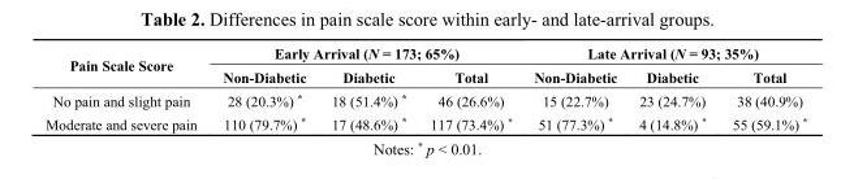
<table><thead><tr><td rowspan="2">Pain Scale Score</td><td colspan="3">Early Arrival (N = 173; 65%)</td><td colspan="3">Late Arrival (N = 93; 35%)</td></tr><tr><td>Non-Diabetic</td><td>Diabetic</td><td>Total</td><td>Non-Diabetic</td><td>Diabetic</td><td>Total</td></tr></thead><tbody><tr><td>No pain and slight pain</td><td>28 (20.3%) *</td><td>18 (51.4%) *</td><td>46 (26.6%)</td><td>15 (22.7%)</td><td>23 (24.7%)</td><td>38 (40.9%)</td></tr><tr><td>Moderate and severe pain</td><td>110 (79.7%) *</td><td>17 (48.6%) *</td><td>117 (73.4%) *</td><td>51 (77.3%) *</td><td>4 (14.8%) *</td><td>55 (59.1%) *</td></tr></tbody></table>